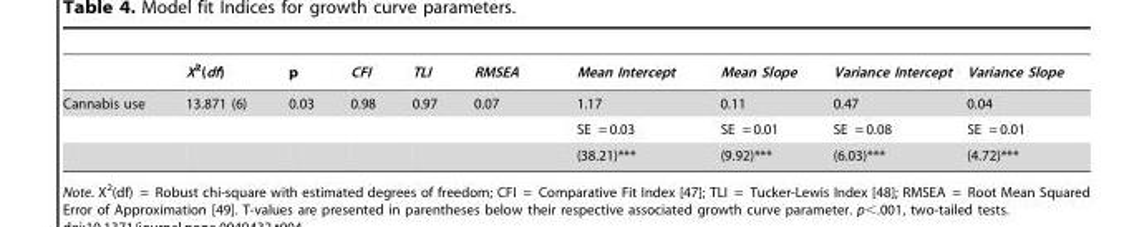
<table><thead><tr><td></td><td>X<sup>2</sup>(df)</td><td>p</td><td>CFI</td><td>TLI</td><td>RMSEA</td><td>Mean Intercept</td><td>Mean Slope</td><td>Variance Intercept</td><td>Variance Slope</td></tr></thead><tbody><tr><td rowspan="3">Cannabis use</td><td>13.871 (6)</td><td>0.03</td><td>0.98</td><td>0.97</td><td>0.07</td><td>1.17</td><td>0.11</td><td>0.47</td><td>0.04</td></tr><tr><td></td><td></td><td></td><td></td><td></td><td>SE = 0.03</td><td>SE = 0.01</td><td>SE = 0.08</td><td>SE = 0.01</td></tr><tr><td></td><td></td><td></td><td></td><td></td><td>(38.21)***</td><td>(9.92)***</td><td>(6.03)***</td><td>(4.72)***</td></tr></tbody></table>